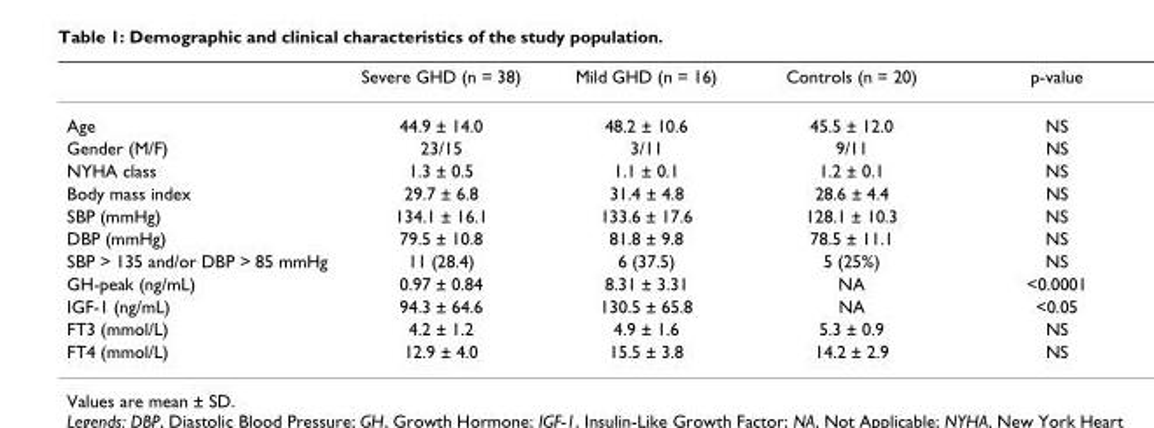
<table><thead><tr><td></td><td>Severe GHD (n = 38)</td><td>Mild GHD (n = 16)</td><td>Controls (n = 20)</td><td>p-value</td></tr></thead><tbody><tr><td>Age</td><td>44.9 ± 14.0</td><td>48.2 ± 10.6</td><td>45.5 ± 12.0</td><td>NS</td></tr><tr><td>Gender (M/F)</td><td>23/15</td><td>3/11</td><td>9/11</td><td>NS</td></tr><tr><td>NYHA class</td><td>1.3 ± 0.5</td><td>1.1 ± 0.1</td><td>1.2 ± 0.1</td><td>NS</td></tr><tr><td>Body mass index</td><td>29.7 ± 6.8</td><td>31.4 ± 4.8</td><td>28.6 ± 4.4</td><td>NS</td></tr><tr><td>SBP (mmHg)</td><td>134.1 ± 16.1</td><td>133.6 ± 17.6</td><td>128.1 ± 10.3</td><td>NS</td></tr><tr><td>DBP (mmHg)</td><td>79.5 ± 10.8</td><td>81.8 ± 9.8</td><td>78.5 ± 11.1</td><td>NS</td></tr><tr><td>SBP &gt; 135 and/or DBP &gt; 85 mmHg</td><td>11 (28.4)</td><td>6 (37.5)</td><td>5 (25%)</td><td>NS</td></tr><tr><td>GH-peak (ng/mL)</td><td>0.97 ± 0.84</td><td>8.31 ± 3.31</td><td>NA</td><td>&lt;0.0001</td></tr><tr><td>IGF-1 (ng/mL)</td><td>94.3 ± 64.6</td><td>130.5 ± 65.8</td><td>NA</td><td>&lt;0.05</td></tr><tr><td>FT3 (mmol/L)</td><td>4.2 ± 1.2</td><td>4.9 ± 1.6</td><td>5.3 ± 0.9</td><td>NS</td></tr><tr><td>FT4 (mmol/L)</td><td>12.9 ± 4.0</td><td>15.5 ± 3.8</td><td>14.2 ± 2.9</td><td>NS</td></tr></tbody></table>